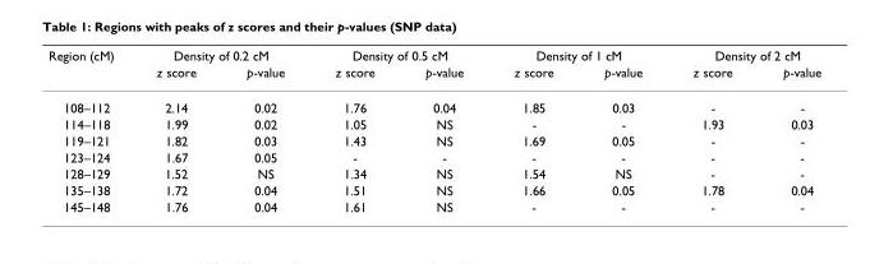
<table><thead><tr><td rowspan="2">Region (cM)</td><td colspan="2">Density of 0.2 cM</td><td colspan="2">Density of 0.5 cM</td><td colspan="2">Density of 1 cM</td><td colspan="2">Density of 2 cM</td></tr><tr><td>z score</td><td>p-value</td><td>z score</td><td>p-value</td><td>z score</td><td>p-value</td><td>z score</td><td>p-value</td></tr></thead><tbody><tr><td>108–112</td><td>2.14</td><td>0.02</td><td>1.76</td><td>0.04</td><td>1.85</td><td>0.03</td><td>-</td><td>-</td></tr><tr><td>114–118</td><td>1.99</td><td>0.02</td><td>1.05</td><td>NS</td><td>-</td><td>-</td><td>1.93</td><td>0.03</td></tr><tr><td>119–121</td><td>1.82</td><td>0.03</td><td>1.43</td><td>NS</td><td>1.69</td><td>0.05</td><td>-</td><td>-</td></tr><tr><td>123–124</td><td>1.67</td><td>0.05</td><td>-</td><td>-</td><td>-</td><td>-</td><td>-</td><td>-</td></tr><tr><td>128–129</td><td>1.52</td><td>NS</td><td>1.34</td><td>NS</td><td>1.54</td><td>NS</td><td>-</td><td>-</td></tr><tr><td>135–138</td><td>1.72</td><td>0.04</td><td>1.51</td><td>NS</td><td>1.66</td><td>0.05</td><td>1.78</td><td>0.04</td></tr><tr><td>145–148</td><td>1.76</td><td>0.04</td><td>1.61</td><td>NS</td><td>-</td><td>-</td><td>-</td><td>-</td></tr></tbody></table>